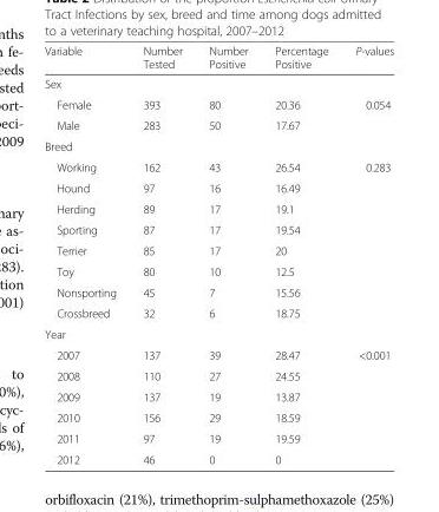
<table><thead><tr><td>Variable</td><td>Number Tested</td><td>Number Positive</td><td>Percentage Positive</td><td>P-values</td></tr></thead><tbody><tr><td colspan="5">Sex</td></tr><tr><td>Female</td><td>393</td><td>80</td><td>20.36</td><td rowspan="2">0.054</td></tr><tr><td>Male</td><td>283</td><td>50</td><td>17.67</td></tr><tr><td colspan="5">Breed</td></tr><tr><td>Working</td><td>162</td><td>43</td><td>26.54</td><td rowspan="8">0.283</td></tr><tr><td>Hound</td><td>97</td><td>16</td><td>16.49</td></tr><tr><td>Herding</td><td>89</td><td>17</td><td>19.1</td></tr><tr><td>Sporting</td><td>87</td><td>17</td><td>19.54</td></tr><tr><td>Terrier</td><td>85</td><td>17</td><td>20</td></tr><tr><td>Toy</td><td>80</td><td>10</td><td>12.5</td></tr><tr><td>Nonsporting</td><td>45</td><td>7</td><td>15.56</td></tr><tr><td>Crossbreed</td><td>32</td><td>6</td><td>18.75</td></tr><tr><td colspan="5">Year</td></tr><tr><td>2007</td><td>137</td><td>39</td><td>28.47</td><td rowspan="6">&lt;0.001</td></tr><tr><td>2008</td><td>110</td><td>27</td><td>24.55</td></tr><tr><td>2009</td><td>137</td><td>19</td><td>13.87</td></tr><tr><td>2010</td><td>156</td><td>29</td><td>18.59</td></tr><tr><td>2011</td><td>97</td><td>19</td><td>19.59</td></tr><tr><td>2012</td><td>46</td><td>0</td><td>0</td></tr></tbody></table>